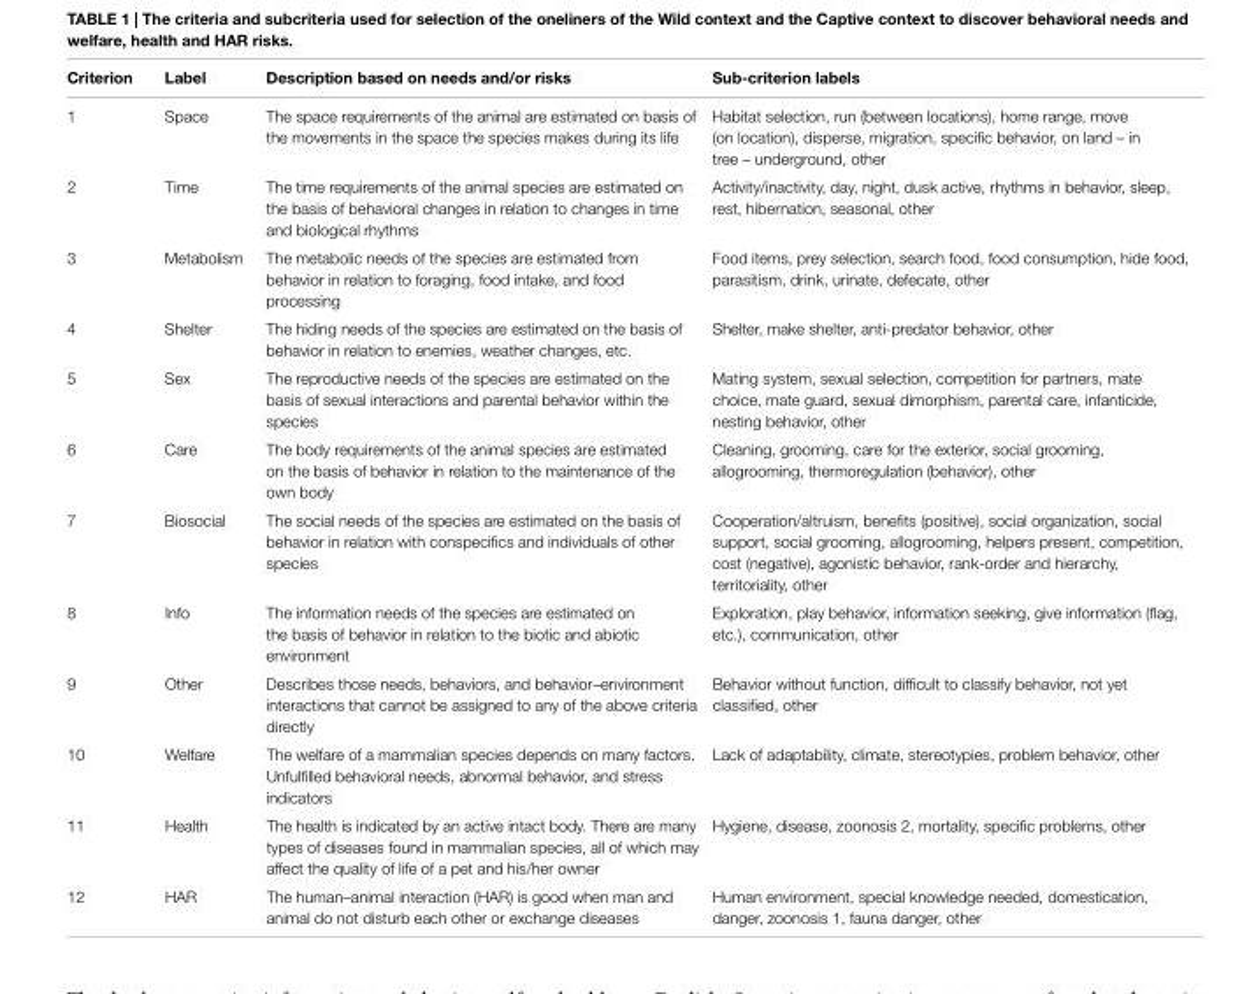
<table><thead><tr><td>criterion</td><td>label</td><td>Description based on needs and/or risks</td><td>sub-criterion labels</td></tr></thead><tbody><tr><td>1</td><td>Space</td><td>The space requirements of the animal are estimated on basis of the movements in the space the species makes during its life</td><td>Habitat selection, run (between locations), home range, move (on location), disperse, migration, specific behavior, on land – in tree – underground, other</td></tr><tr><td>2</td><td>Time</td><td>The time requirements of the animal species are estimated on the basis of behavioral changes in relation to changes in time and biological rhythms</td><td>Activity/inactivity, day, night, dusk active, rhythms in behavior, sleep, rest, hibernation, seasonal, other</td></tr><tr><td>3</td><td>Metabolism</td><td>The metabolic needs of the species are estimated from behavior in relation to foraging, food intake, and food processing</td><td>Food items, prey selection, search food, food consumption, hide food, parasitism, drink, urinate, defecate, other</td></tr><tr><td>4</td><td>Shelter</td><td>The hiding needs of the species are estimated on the basis of behavior in relation to enemies, weather changes, etc.</td><td>Shelter, make shelter, anti-predator behavior, other</td></tr><tr><td>5</td><td>Sex</td><td>The reproductive needs of the species are estimated on the basis of sexual interactions and parental behavior within the species</td><td>Mating system, sexual selection, competition for partners, mate choice, mate guard, sexual dimorphism, parental care, infanticide, nesting behavior, other</td></tr><tr><td>6</td><td>Care</td><td>The body requirements of the animal species are estimated on the basis of behavior in relation to the maintenance of the own body</td><td>Cleaning, grooming, care for the exterior, social grooming, allogrooming, thermoregulation (behavior), other</td></tr><tr><td>7</td><td>Biosocial</td><td>The social needs of the species are estimated on the basis of behavior in relation with conspecifics and individuals of other species</td><td>Cooperation/altruism, benefits (positive), social organization, social support, social grooming, allogrooming, helpers present, competition, cost (negative), agonistic behavior, rank-order and hierarchy, territoriality, other</td></tr><tr><td>8</td><td>Info</td><td>The information needs of the species are estimated on the basis of behavior in relation to the biotic and abiotic environment</td><td>Exploration, play behavior, information seeking, give information (flag, etc.), communication, other</td></tr><tr><td>9</td><td>Other</td><td>Describes those needs, behaviors, and behavior–environment interactions that cannot be assigned to any of the above criteria directly</td><td>Behavior without function, difficult to classify behavior, not yet classified, other</td></tr><tr><td>10</td><td>Welfare</td><td>The welfare of a mammalian species depends on many factors. Unfulfilled behavioral needs, abnormal behavior, and stress indicators</td><td>Lack of adaptability, climate, stereotypies, problem behavior, other</td></tr><tr><td>11</td><td>Health</td><td>The health is indicated by an active intact body. There are many types of diseases found in mammalian species, all of which may affect the quality of life of a pet and his/her owner</td><td>Hygiene, disease, zoonosis 2, mortality, specific problems, other</td></tr><tr><td>12</td><td>HAR</td><td>The human–animal interaction (HAR) is good when man and animal do not disturb each other or exchange diseases</td><td>Human environment, special knowledge needed, domestication, danger, zoonosis 1, fauna danger, other</td></tr></tbody></table>